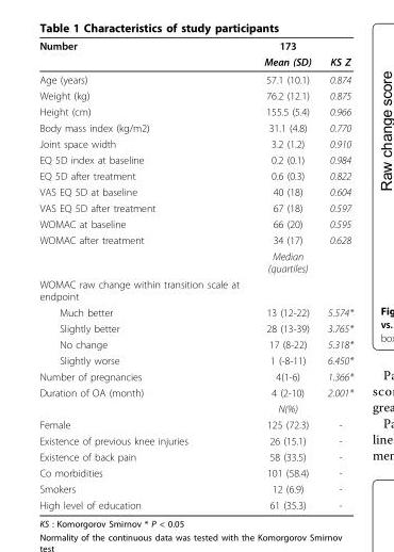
<table><thead><tr><td rowspan="2">Number</td><td rowspan="2">173 Mean (SD)</td><td rowspan="2">KS Z</td></tr><tr></tr></thead><tbody><tr><td>Age (years)</td><td>57.1 (10.1)</td><td>0.874</td></tr><tr><td>Weight (kg)</td><td>76.2 (12.1)</td><td>0.875</td></tr><tr><td>Height (cm)</td><td>155.5 (5.4)</td><td>0.966</td></tr><tr><td>Body mass index (kg/m2)</td><td>31.1 (4.8)</td><td>0.770</td></tr><tr><td>Joint space width</td><td>3.2 (1.2)</td><td>0.910</td></tr><tr><td>EQ 5D index at baseline</td><td>0.2 (0.1)</td><td>0.984</td></tr><tr><td>EQ 5D after treatment</td><td>0.6 (0.3)</td><td>0.822</td></tr><tr><td>VAS EQ 5D at baseline</td><td>40 (18)</td><td>0.604</td></tr><tr><td>VAS EQ 5D after treatment</td><td>67 (18)</td><td>0.597</td></tr><tr><td>WOMAC at baseline</td><td>66 (20)</td><td>0.595</td></tr><tr><td rowspan="2">WOMAC after treatment</td><td>34 (17)</td><td>0.628</td></tr><tr><td>Median (quartiles)</td><td></td></tr><tr><td colspan="3">WOMAC raw change within transition scale at endpoint</td></tr><tr><td>Much better</td><td>13 (12-22)</td><td>5.574*</td></tr><tr><td>Slightly better</td><td>28 (13-39)</td><td>3.765*</td></tr><tr><td>No change</td><td>17 (8-22)</td><td>5.318*</td></tr><tr><td>Slightly worse</td><td>1 (-8-11)</td><td>6.450*</td></tr><tr><td>Number of pregnancies</td><td>4(1-6)</td><td>1.366*</td></tr><tr><td rowspan="2">Duration of OA (month)</td><td>4 (2-10)</td><td>2.001*</td></tr><tr><td>N(%)</td><td></td></tr><tr><td>Female</td><td>125 (72.3)</td><td>-</td></tr><tr><td>Existence of previous knee injuries</td><td>26 (15.1)</td><td>-</td></tr><tr><td>Existence of back pain</td><td>58 (33.5)</td><td>-</td></tr><tr><td>Co morbidities</td><td>101 (58.4)</td><td>-</td></tr><tr><td>Smokers</td><td>12 (6.9)</td><td>-</td></tr><tr><td>High level of education</td><td>61 (35.3)</td><td>-</td></tr></tbody></table>